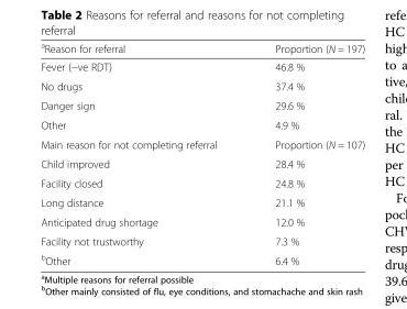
<table><thead><tr><td><sup>a</sup>Reason for referral</td><td>Proportion (N = 197)</td></tr></thead><tbody><tr><td>Fever (−ve RDT)</td><td>46.8 %</td></tr><tr><td>No drugs</td><td>37.4 %</td></tr><tr><td>Danger sign</td><td>29.6 %</td></tr><tr><td>Other</td><td>4.9 %</td></tr><tr><td>Main reason for not completing referral</td><td>Proportion (N = 107)</td></tr><tr><td>Child improved</td><td>28.4 %</td></tr><tr><td>Facility closed</td><td>24.8 %</td></tr><tr><td>Long distance</td><td>21.1 %</td></tr><tr><td>Anticipated drug shortage</td><td>12.0 %</td></tr><tr><td>Facility not trustworthy</td><td>7.3 %</td></tr><tr><td><sup>b</sup>Other</td><td>6.4 %</td></tr></tbody></table>